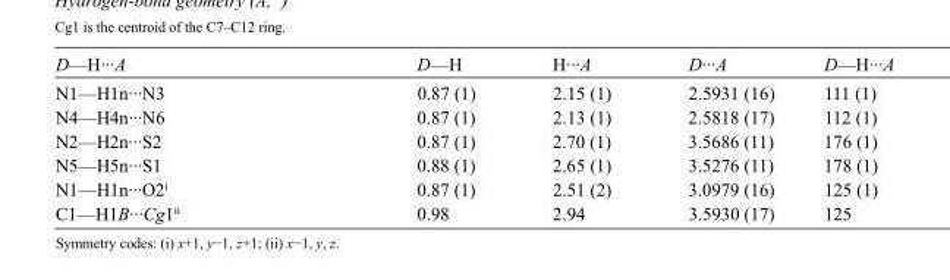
<table><tbody><tr><td>D—H···A</td><td>D—H</td><td>H···A</td><td>D···A</td><td>D—H···A</td></tr><tr><td>N1—H1n···N3</td><td>0.87 (1)</td><td>2.15 (1)</td><td>2.5931 (16)</td><td>111 (1)</td></tr><tr><td>N4—H4n···N6</td><td>0.87 (1)</td><td>2.13 (1)</td><td>2.5818 (17)</td><td>112 (1)</td></tr><tr><td>N2—H2n···S2</td><td>0.87 (1)</td><td>2.70 (1)</td><td>3.5686 (11)</td><td>176 (1)</td></tr><tr><td>N5—H5n···S1</td><td>0.88 (1)</td><td>2.65 (1)</td><td>3.5276 (11)</td><td>178 (1)</td></tr><tr><td>N1—H1n···O2<sup>i</sup></td><td>0.87 (1)</td><td>2.51 (2)</td><td>3.0979 (16)</td><td>125 (1)</td></tr><tr><td>C1—H1B···Cg1<sup>ii</sup></td><td>0.98</td><td>2.94</td><td>3.5930 (17)</td><td>125</td></tr></tbody></table>